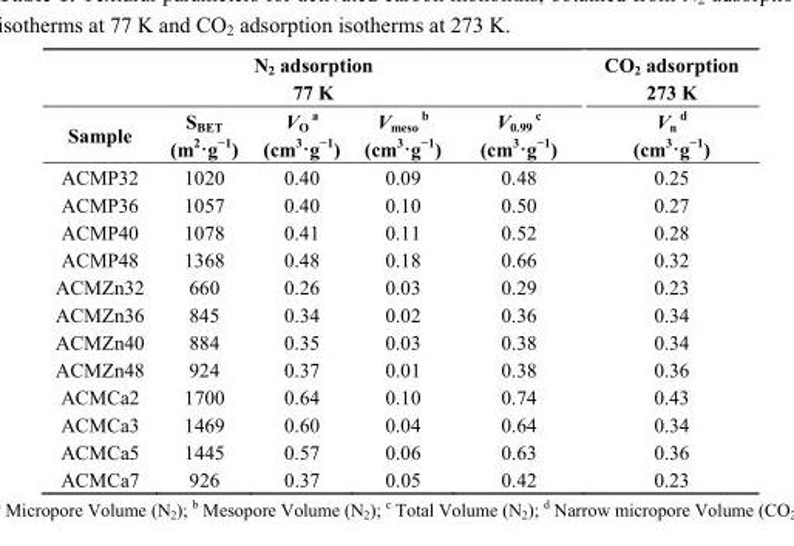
<table><thead><tr><td colspan="5">N<sub>2</sub> adsorption 77 K</td><td rowspan="2">CO<sub>2</sub> adsorption 273 K V<sub>n</sub> <sup>d</sup> (cm<sup>3</sup>·g<sup>−1</sup>)</td></tr><tr><td>Sample</td><td>S<sub>BET</sub> (m<sup>2</sup>·g<sup>−1</sup>)</td><td>V<sub>O</sub> <sup>a</sup> (cm<sup>3</sup>·g<sup>−1</sup>)</td><td>V<sub>meso</sub> <sup>b</sup> (cm<sup>3</sup>·g<sup>−1</sup>)</td><td>V<sub>0.99</sub> <sup>c</sup> (cm<sup>3</sup>·g<sup>−1</sup>)</td></tr></thead><tbody><tr><td>ACMP32</td><td>1020</td><td>0.40</td><td>0.09</td><td>0.48</td><td>0.25</td></tr><tr><td>ACMP36</td><td>1057</td><td>0.40</td><td>0.10</td><td>0.50</td><td>0.27</td></tr><tr><td>ACMP40</td><td>1078</td><td>0.41</td><td>0.11</td><td>0.52</td><td>0.28</td></tr><tr><td>ACMP48</td><td>1368</td><td>0.48</td><td>0.18</td><td>0.66</td><td>0.32</td></tr><tr><td>ACMZn32</td><td>660</td><td>0.26</td><td>0.03</td><td>0.29</td><td>0.23</td></tr><tr><td>ACMZn36</td><td>845</td><td>0.34</td><td>0.02</td><td>0.36</td><td>0.34</td></tr><tr><td>ACMZn40</td><td>884</td><td>0.35</td><td>0.03</td><td>0.38</td><td>0.34</td></tr><tr><td>ACMZn48</td><td>924</td><td>0.37</td><td>0.01</td><td>0.38</td><td>0.36</td></tr><tr><td>ACMCa2</td><td>1700</td><td>0.64</td><td>0.10</td><td>0.74</td><td>0.43</td></tr><tr><td>ACMCa3</td><td>1469</td><td>0.60</td><td>0.04</td><td>0.64</td><td>0.34</td></tr><tr><td>ACMCa5</td><td>1445</td><td>0.57</td><td>0.06</td><td>0.63</td><td>0.36</td></tr><tr><td>ACMCa7</td><td>926</td><td>0.37</td><td>0.05</td><td>0.42</td><td>0.23</td></tr></tbody></table>